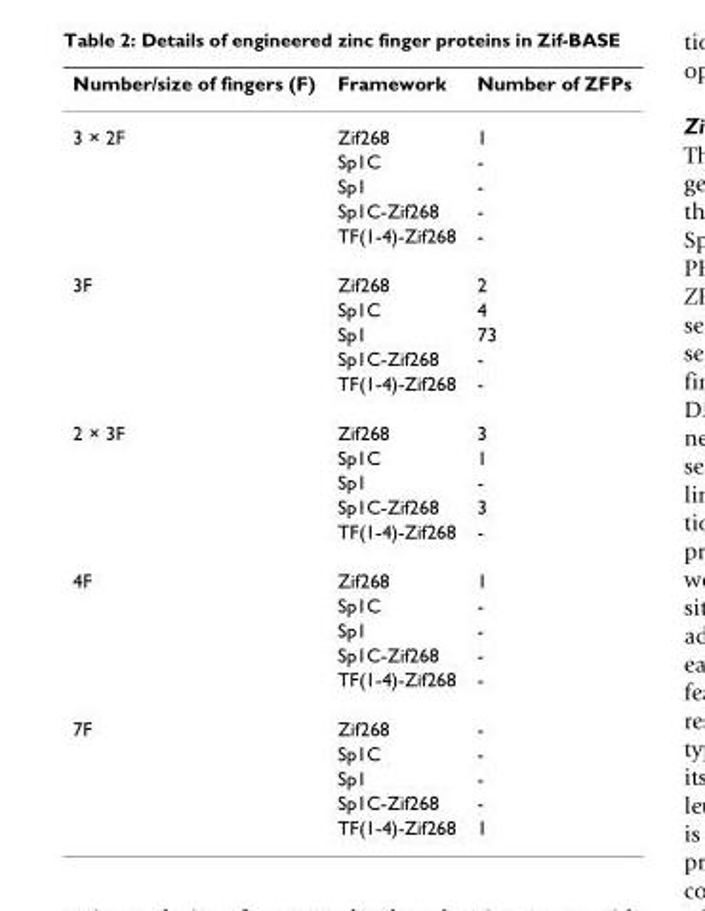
<table><thead><tr><td>Number/size of fingers (F)</td><td>Framework</td><td>Number of ZFPs</td></tr></thead><tbody><tr><td rowspan="5">3 × 2F</td><td>Zif268</td><td>1</td></tr><tr><td>Sp1C</td><td>-</td></tr><tr><td>Sp1</td><td>-</td></tr><tr><td>Sp1C-Zif268</td><td>-</td></tr><tr><td>TF(1-4)-Zif268</td><td>-</td></tr><tr><td rowspan="5">3F</td><td>Zif268</td><td>2</td></tr><tr><td>Sp1C</td><td>4</td></tr><tr><td>Sp1</td><td>73</td></tr><tr><td>Sp1C-Zif268</td><td>-</td></tr><tr><td>TF(1-4)-Zif268</td><td>-</td></tr><tr><td rowspan="5">2 × 3F</td><td>Zif268</td><td>3</td></tr><tr><td>Sp1C</td><td>1</td></tr><tr><td>Sp1</td><td>-</td></tr><tr><td>Sp1C-Zif268</td><td>3</td></tr><tr><td>TF(1-4)-Zif268</td><td>-</td></tr><tr><td rowspan="5">4F</td><td>Zif268</td><td>1</td></tr><tr><td>Sp1C</td><td>-</td></tr><tr><td>Sp1</td><td>-</td></tr><tr><td>Sp1C-Zif268</td><td>-</td></tr><tr><td>TF(1-4)-Zif268</td><td>-</td></tr><tr><td rowspan="5">7F</td><td>Zif268</td><td>-</td></tr><tr><td>Sp1C</td><td>-</td></tr><tr><td>Sp1</td><td>-</td></tr><tr><td>Sp1C-Zif268</td><td>-</td></tr><tr><td>TF(1-4)-Zif268</td><td>1</td></tr></tbody></table>